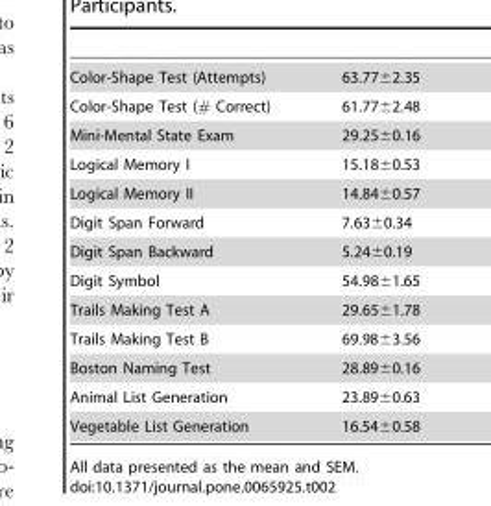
<table><tbody><tr><td>Color-Shape Test (Attempts)</td><td>63.77±2.35</td></tr><tr><td>Color-Shape Test (# Correct)</td><td>61.77±2.48</td></tr><tr><td>Mini-Mental State Exam</td><td>29.25±0.16</td></tr><tr><td>Logical Memory I</td><td>15.18±0.53</td></tr><tr><td>Logical Memory II</td><td>14.84±0.57</td></tr><tr><td>Digit Span Forward</td><td>7.63±0.34</td></tr><tr><td>Digit Span Backward</td><td>5.24±0.19</td></tr><tr><td>Digit Symbol</td><td>54.98±1.65</td></tr><tr><td>Trails Making Test A</td><td>29.65±1.78</td></tr><tr><td>Trails Making Test B</td><td>69.98±3.56</td></tr><tr><td>Boston Naming Test</td><td>28.89±0.16</td></tr><tr><td>Animal List Generation</td><td>23.89±0.63</td></tr><tr><td>Vegetable List Generation</td><td>16.54±0.58</td></tr></tbody></table>